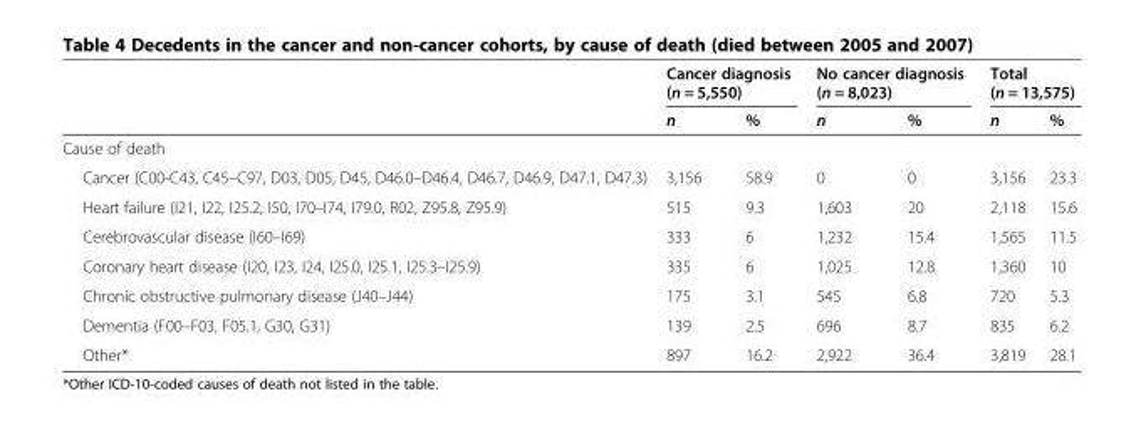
<table><thead><tr><td rowspan="2"></td><td colspan="2">Cancer diagnosis (n = 5,550)</td><td colspan="2">No cancer diagnosis (n = 8,023)</td><td colspan="2">Total (n = 13,575)</td></tr><tr><td>n</td><td>%</td><td>n</td><td>%</td><td>n</td><td>%</td></tr></thead><tbody><tr><td colspan="7">Cause of death</td></tr><tr><td>Cancer (C00-C43, C45–C97, D03, D05, D45, D46.0–D46.4, D46.7, D46.9, D47.1, D47.3)</td><td>3,156</td><td>58.9</td><td>0</td><td>0</td><td>3,156</td><td>23.3</td></tr><tr><td>Heart failure (I21, I22, I25.2, I50, I70–I74, I79.0, R02, Z95.8, Z95.9)</td><td>515</td><td>9.3</td><td>1,603</td><td>20</td><td>2,118</td><td>15.6</td></tr><tr><td>Cerebrovascular disease (I60–I69)</td><td>333</td><td>6</td><td>1,232</td><td>15.4</td><td>1,565</td><td>11.5</td></tr><tr><td>Coronary heart disease (I20, I23, I24, I25.0, I25.1, I25.3–I25.9)</td><td>335</td><td>6</td><td>1,025</td><td>12.8</td><td>1,360</td><td>10</td></tr><tr><td>Chronic obstructive pulmonary disease (J40–J44)</td><td>175</td><td>3.1</td><td>545</td><td>6.8</td><td>720</td><td>5.3</td></tr><tr><td>Dementia (F00–F03, F05.1, G30, G31)</td><td>139</td><td>2.5</td><td>696</td><td>8.7</td><td>835</td><td>6.2</td></tr><tr><td>Other*</td><td>897</td><td>16.2</td><td>2,922</td><td>36.4</td><td>3,819</td><td>28.1</td></tr></tbody></table>